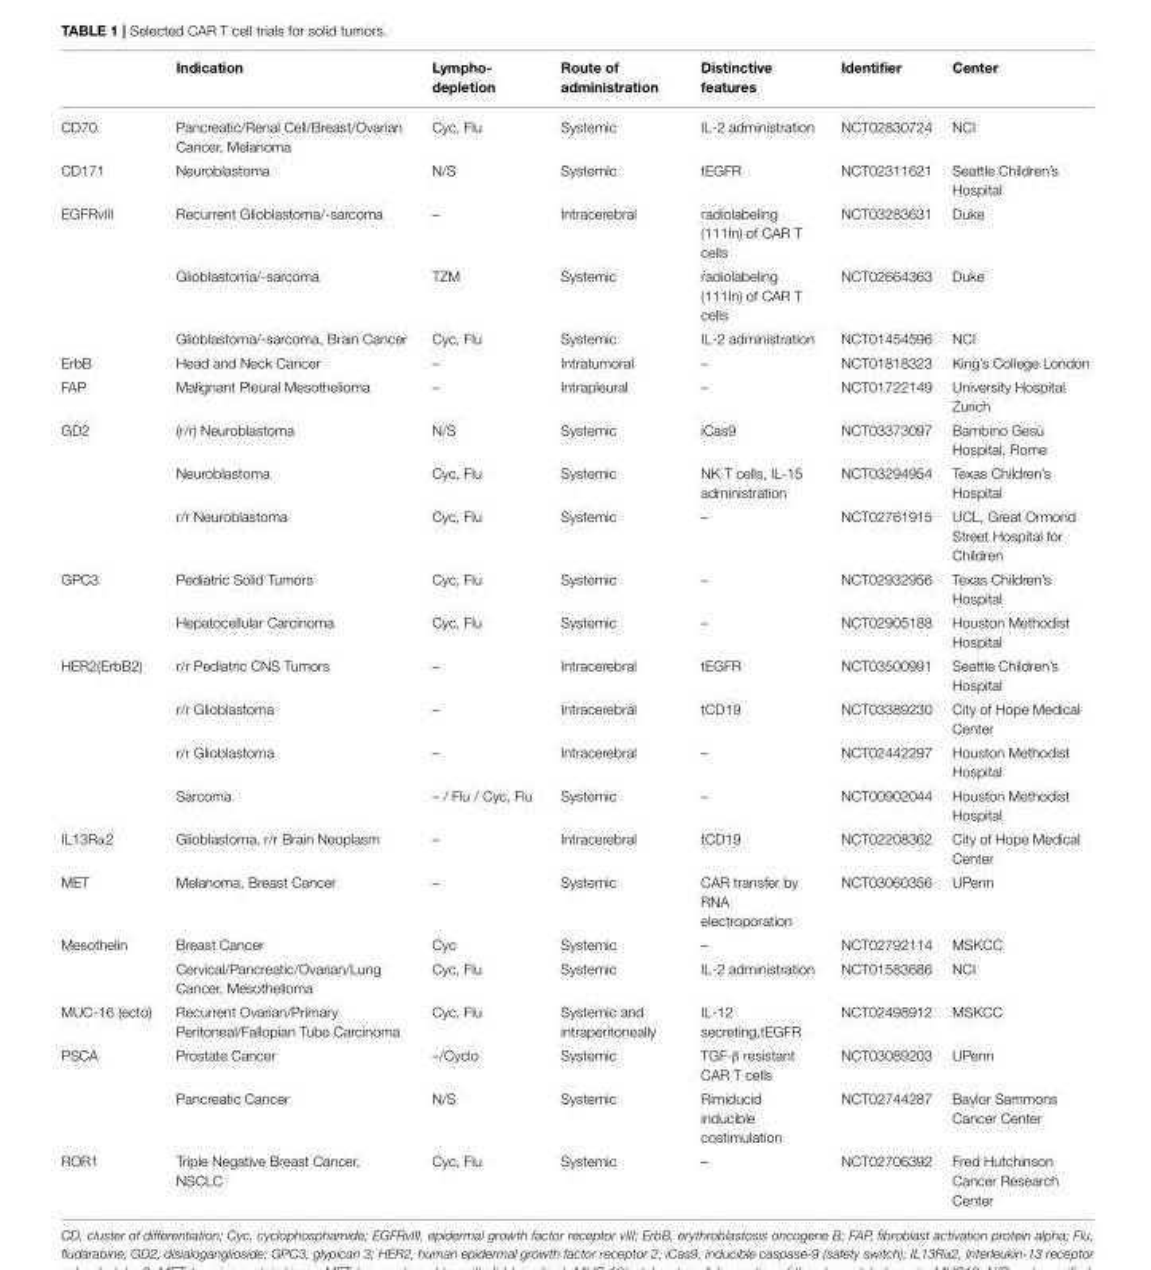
<table><thead><tr><td></td><td>Indication</td><td>Lympho- depletion</td><td>Route of administration</td><td>Distinctive features</td><td>Identifier</td><td>Center</td></tr></thead><tbody><tr><td>CD70</td><td>Pancreatic/Renal Cell/Breast/Ovarian Cancer, Melanoma</td><td>Cyc, Flu</td><td>Systemic</td><td>IL-2 administration</td><td>NCT02830724</td><td>NCI</td></tr><tr><td>CD171</td><td>Neuroblastoma</td><td>N/S</td><td>Systemic</td><td>tEGFR</td><td>NCT02311621</td><td>Seattle Children’s Hospital</td></tr><tr><td rowspan="3">EGFRvIII</td><td>Recurrent Glioblastoma/-sarcoma</td><td>–</td><td>Intracerebral</td><td>radiolabeling (111In) of CAR T cells</td><td>NCT03283631</td><td>Duke</td></tr><tr><td>Glioblastoma/-sarcoma</td><td>TZM</td><td>Systemic</td><td>radiolabeling (111In) of CAR T cells</td><td>NCT02664363</td><td>Duke</td></tr><tr><td>Glioblastoma/-sarcoma, Brain Cancer</td><td>Cyc, Flu</td><td>Systemic</td><td>IL-2 administration</td><td>NCT01454596</td><td>NCI</td></tr><tr><td>ErbB</td><td>Head and Neck Cancer</td><td>–</td><td>Intratumoral</td><td>–</td><td>NCT01818323</td><td>King’s College London</td></tr><tr><td>FAP</td><td>Malignant Pleural Mesothelioma</td><td>–</td><td>Intrapleural</td><td>–</td><td>NCT01722149</td><td>University Hospital Zurich</td></tr><tr><td rowspan="3">GD2</td><td>(r/r) Neuroblastoma</td><td>N/S</td><td>Systemic</td><td>iCas9</td><td>NCT03373097</td><td>Bambino Gesù Hospital, Rome</td></tr><tr><td>Neuroblastoma</td><td>Cyc, Flu</td><td>Systemic</td><td>NK T cells, IL-15 administration</td><td>NCT03294954</td><td>Texas Children’s Hospital</td></tr><tr><td>r/r Neuroblastoma</td><td>Cyc, Flu</td><td>Systemic</td><td>–</td><td>NCT02761915</td><td>UCL, Great Ormond Street Hospital for Children</td></tr><tr><td rowspan="2">GPC3</td><td>Pediatric Solid Tumors</td><td>Cyc, Flu</td><td>Systemic</td><td>–</td><td>NCT02932956</td><td>Texas Children’s Hospital</td></tr><tr><td>Hepatocellular Carcinoma</td><td>Cyc, Flu</td><td>Systemic</td><td>–</td><td>NCT02905188</td><td>Houston Methodist Hospital</td></tr><tr><td rowspan="4">HER2(ErbB2)</td><td>r/r Pediatric CNS Tumors</td><td>–</td><td>Intracerebral</td><td>tEGFR</td><td>NCT03500991</td><td>Seattle Children’s Hospital</td></tr><tr><td>r/r Glioblastoma</td><td>–</td><td>Intracerebral</td><td>tCD19</td><td>NCT03389230</td><td>City of Hope Medical Center</td></tr><tr><td>r/r Glioblastoma</td><td>–</td><td>Intracerebral</td><td>–</td><td>NCT02442297</td><td>Houston Methodist Hospital</td></tr><tr><td>Sarcoma</td><td>– / Flu / Cyc, Flu</td><td>Systemic</td><td>–</td><td>NCT00902044</td><td>Houston Methodist Hospital</td></tr><tr><td>IL13Rα2</td><td>Glioblastoma, r/r Brain Neoplasm</td><td>–</td><td>Intracerebral</td><td>tCD19</td><td>NCT02208362</td><td>City of Hope Medical Center</td></tr><tr><td>MET</td><td>Melanoma, Breast Cancer</td><td>–</td><td>Systemic</td><td>CAR transfer by RNA electroporation</td><td>NCT03060356</td><td>UPenn</td></tr><tr><td rowspan="2">Mesothelin</td><td>Breast Cancer</td><td>Cyc</td><td>Systemic</td><td>–</td><td>NCT02792114</td><td>MSKCC</td></tr><tr><td>Cervical/Pancreatic/Ovarian/Lung Cancer, Mesothelioma</td><td>Cyc, Flu</td><td>Systemic</td><td>IL-2 administration</td><td>NCT01583686</td><td>NCI</td></tr><tr><td>MUC-16 (ecto)</td><td>Recurrent Ovarian/Primary Peritoneal/Fallopian Tube Carcinoma</td><td>Cyc, Flu</td><td>Systemic and intraperitoneally</td><td>IL-12 secreting,tEGFR</td><td>NCT02498912</td><td>MSKCC</td></tr><tr><td rowspan="2">PSCA</td><td>Prostate Cancer</td><td>–/Cyclo</td><td>Systemic</td><td>TGF-β resistant CAR T cells</td><td>NCT03089203</td><td>UPenn</td></tr><tr><td>Pancreatic Cancer</td><td>N/S</td><td>Systemic</td><td>Rimiducid inducible costimulation</td><td>NCT02744287</td><td>Baylor Sammons Cancer Center</td></tr><tr><td>ROR1</td><td>Triple Negative Breast Cancer, NSCLC</td><td>Cyc, Flu</td><td>Systemic</td><td>–</td><td>NCT02706392</td><td>Fred Hutchinson Cancer Research Center</td></tr></tbody></table>